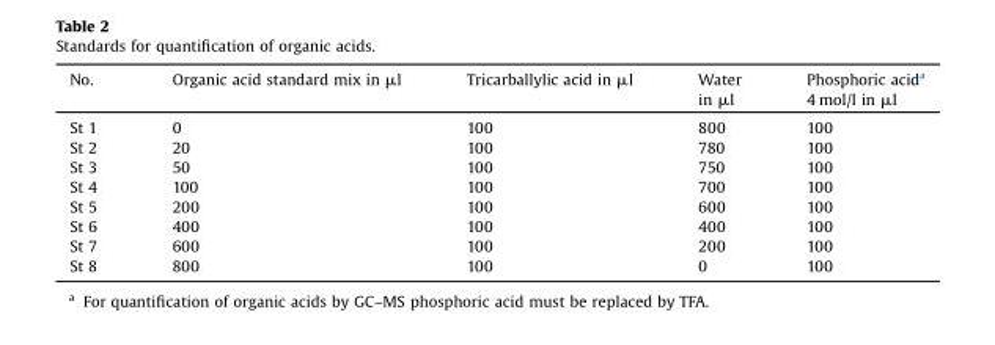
<table><thead><tr><td>No.</td><td>Organic acid standard mix in μl</td><td>Tricarballylic acid in μl</td><td>Water in μl</td><td>Phosphoric acid<sup>a</sup> 4 mol/l in μl</td></tr></thead><tbody><tr><td>St 1</td><td>0</td><td>100</td><td>800</td><td>100</td></tr><tr><td>St 2</td><td>20</td><td>100</td><td>780</td><td>100</td></tr><tr><td>St 3</td><td>50</td><td>100</td><td>750</td><td>100</td></tr><tr><td>St 4</td><td>100</td><td>100</td><td>700</td><td>100</td></tr><tr><td>St 5</td><td>200</td><td>100</td><td>600</td><td>100</td></tr><tr><td>St 6</td><td>400</td><td>100</td><td>400</td><td>100</td></tr><tr><td>St 7</td><td>600</td><td>100</td><td>200</td><td>100</td></tr><tr><td>St 8</td><td>800</td><td>100</td><td>0</td><td>100</td></tr></tbody></table>